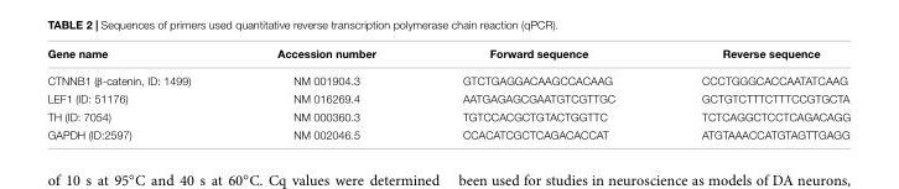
<table><thead><tr><td>Gene name</td><td>Accession number</td><td>Forward sequence</td><td>Reverse sequence</td></tr></thead><tbody><tr><td>CTNNB1 (β-catenin, ID: 1499)</td><td>NM 001904.3</td><td>GTCTGAGGACAAGCCACAAG</td><td>CCCTGGGCACCAATATCAAG</td></tr><tr><td>LEF1 (ID: 51176)</td><td>NM 016269.4</td><td>AATGAGAGCGAATGTCGTTGC</td><td>GCTGTCTTTCTTTCCGTGCTA</td></tr><tr><td>TH (ID: 7054)</td><td>NM 000360.3</td><td>TGTCCACGCTGTACTGGTTC</td><td>TCTCAGGCTCCTCAGACAGG</td></tr><tr><td>GAPDH (ID:2597)</td><td>NM 002046.5</td><td>CCACATCGCTCAGACACCAT</td><td>ATGTAAACCATGTAGTTGAGG</td></tr></tbody></table>